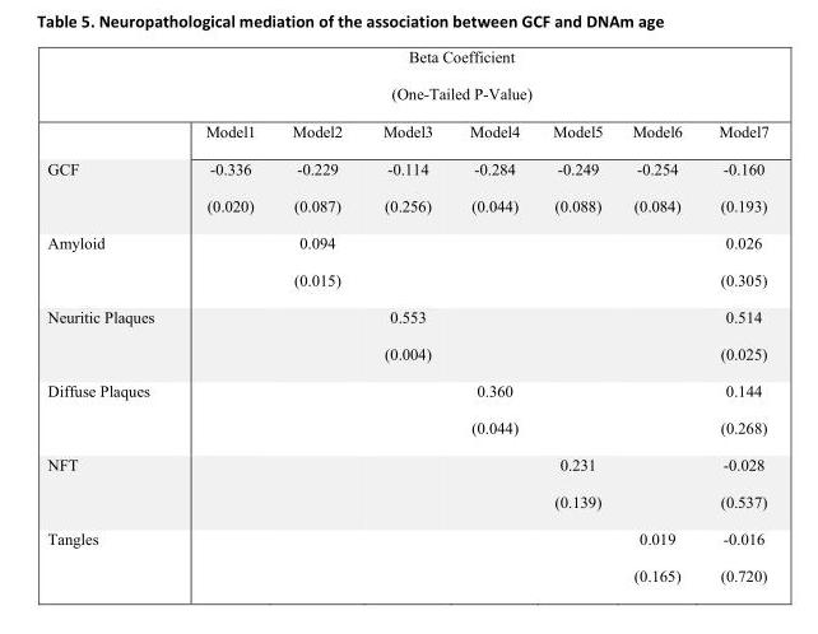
<table><thead><tr><td rowspan="2"></td><td colspan="7">Beta Coefficient (One-Tailed P-Value)</td></tr><tr><td>Model1</td><td>Model2</td><td>Model3</td><td>Model4</td><td>Model5</td><td>Model6</td><td>Model7</td></tr></thead><tbody><tr><td>GCF</td><td>-0.336 (0.020)</td><td>-0.229 (0.087)</td><td>-0.114 (0.256)</td><td>-0.284 (0.044)</td><td>-0.249 (0.088)</td><td>-0.254 (0.084)</td><td>-0.160 (0.193)</td></tr><tr><td>Amyloid</td><td></td><td>0.094 (0.015)</td><td></td><td></td><td></td><td></td><td>0.026 (0.305)</td></tr><tr><td>Neuritic Plaques</td><td></td><td></td><td>0.553 (0.004)</td><td></td><td></td><td></td><td>0.514 (0.025)</td></tr><tr><td>Diffuse Plaques</td><td></td><td></td><td></td><td>0.360 (0.044)</td><td></td><td></td><td>0.144 (0.268)</td></tr><tr><td>NFT</td><td></td><td></td><td></td><td></td><td>0.231 (0.139)</td><td></td><td>-0.028 (0.537)</td></tr><tr><td>Tangles</td><td></td><td></td><td></td><td></td><td></td><td>0.019 (0.165)</td><td>-0.016 (0.720)</td></tr></tbody></table>